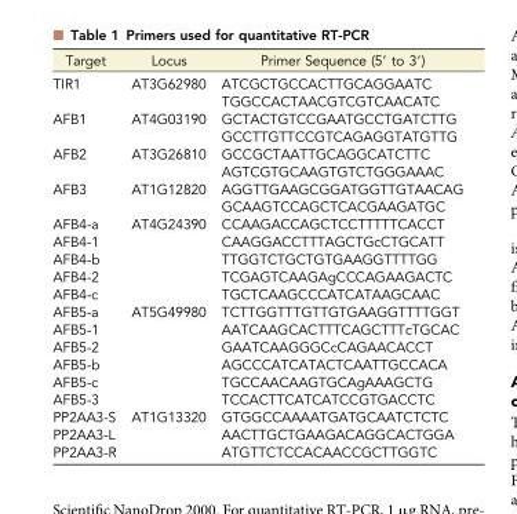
<table><thead><tr><td>Target</td><td>Locus</td><td>Primer Sequence (5′ to 3′)</td></tr></thead><tbody><tr><td rowspan="2">TIR1</td><td>AT3G62980</td><td>ATCGCTGCCACTTGCAGGAATC</td></tr><tr><td></td><td>TGGCCACTAACGTCGTCAACATC</td></tr><tr><td rowspan="2">AFB1</td><td>AT4G03190</td><td>GCTACTGTCCGAATGCCTGATCTTG</td></tr><tr><td></td><td>GCCTTGTTCCGTCAGAGGTATGTTG</td></tr><tr><td rowspan="2">AFB2</td><td>AT3G26810</td><td>GCCGCTAATTGCAGGCATCTTC</td></tr><tr><td></td><td>AGTCGTGCAAGTGTCTGGGAAAC</td></tr><tr><td rowspan="2">AFB3</td><td>AT1G12820</td><td>AGGTTGAAGCGGATGGTTGTAACAG</td></tr><tr><td></td><td>GCAAGTCCAGCTCACGAAGATGC</td></tr><tr><td>AFB4-a</td><td>AT4G24390</td><td>CCAAGACCAGCTCCTTTTTCACCT</td></tr><tr><td>AFB4-1</td><td></td><td>CAAGGACCTTTAGCTGcCTGCATT</td></tr><tr><td>AFB4-b</td><td></td><td>TTGGTCTGCTGTGAAGGTTTTGG</td></tr><tr><td>AFB4-2</td><td></td><td>TCGAGTCAAGAgCCCAGAAGACTC</td></tr><tr><td>AFB4-c</td><td></td><td>TGCTCAAGCCCATCATAAGCAAC</td></tr><tr><td>AFB5-a</td><td>AT5G49980</td><td>TCTTGGTTTGTTGTGAAGGTTTTGGT</td></tr><tr><td>AFB5-1</td><td></td><td>AATCAAGCACTTTCAGCTTTcTGCAC</td></tr><tr><td>AFB5-2</td><td></td><td>GAATCAAGGGCcCAGAACACCT</td></tr><tr><td>AFB5-b</td><td></td><td>AGCCCATCATACTCAATTGCCACA</td></tr><tr><td>AFB5-c</td><td></td><td>TGCCAACAAGTGCAgAAAGCTG</td></tr><tr><td>AFB5-3</td><td></td><td>TCCACTTCATCATCCGTGACCTC</td></tr><tr><td>PP2AA3-S</td><td>AT1G13320</td><td>GTGGCCAAAATGATGCAATCTCTC</td></tr><tr><td>PP2AA3-L</td><td></td><td>AACTTGCTGAAGACAGGCACTGGA</td></tr><tr><td>PP2AA3-R</td><td></td><td>ATGTTCTCCACAACCGCTTGGTC</td></tr></tbody></table>